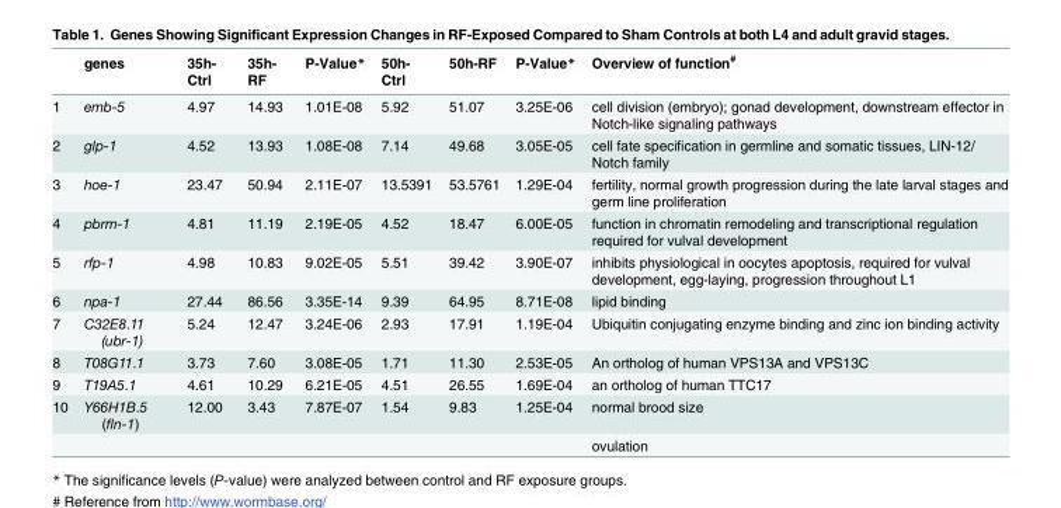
<table><thead><tr><td></td><td>genes</td><td>35h- Ctrl</td><td>35h- RF</td><td>P-Value*</td><td>50h- Ctrl</td><td>50h-RF</td><td>P-Value*</td><td>Overview of function<sup>#</sup></td></tr></thead><tbody><tr><td>1</td><td>emb-5</td><td>4.97</td><td>14.93</td><td>1.01E-08</td><td>5.92</td><td>51.07</td><td>3.25E-06</td><td>cell division (embryo); gonad development, downstream effector in Notch-like signaling pathways</td></tr><tr><td>2</td><td>glp-1</td><td>4.52</td><td>13.93</td><td>1.08E-08</td><td>7.14</td><td>49.68</td><td>3.05E-05</td><td>cell fate specification in germline and somatic tissues, LIN-12/ Notch family</td></tr><tr><td>3</td><td>hoe-1</td><td>23.47</td><td>50.94</td><td>2.11E-07</td><td>13.5391</td><td>53.5761</td><td>1.29E-04</td><td>fertility, normal growth progression during the late larval stages and germ line proliferation</td></tr><tr><td>4</td><td>pbrm-1</td><td>4.81</td><td>11.19</td><td>2.19E-05</td><td>4.52</td><td>18.47</td><td>6.00E-05</td><td>function in chromatin remodeling and transcriptional regulation required for vulval development</td></tr><tr><td>5</td><td>rfp-1</td><td>4.98</td><td>10.83</td><td>9.02E-05</td><td>5.51</td><td>39.42</td><td>3.90E-07</td><td>inhibits physiological in oocytes apoptosis, required for vulval development, egg-laying, progression throughout L1</td></tr><tr><td>6</td><td>npa-1</td><td>27.44</td><td>86.56</td><td>3.35E-14</td><td>9.39</td><td>64.95</td><td>8.71E-08</td><td>lipid binding</td></tr><tr><td>7</td><td>C32E8.11 (ubr-1)</td><td>5.24</td><td>12.47</td><td>3.24E-06</td><td>2.93</td><td>17.91</td><td>1.19E-04</td><td>Ubiquitin conjugating enzyme binding and zinc ion binding activity</td></tr><tr><td>8</td><td>T08G11.1</td><td>3.73</td><td>7.60</td><td>3.08E-05</td><td>1.71</td><td>11.30</td><td>2.53E-05</td><td>An ortholog of human VPS13A and VPS13C</td></tr><tr><td>9</td><td>T19A5.1</td><td>4.61</td><td>10.29</td><td>6.21E-05</td><td>4.51</td><td>26.55</td><td>1.69E-04</td><td>an ortholog of human TTC17</td></tr><tr><td rowspan="2">10</td><td>Y66H1B.5 (fln-1)</td><td>12.00</td><td>3.43</td><td>7.87E-07</td><td>1.54</td><td>9.83</td><td>1.25E-04</td><td>normal brood size</td></tr><tr><td></td><td></td><td></td><td></td><td></td><td></td><td></td><td>ovulation</td></tr></tbody></table>